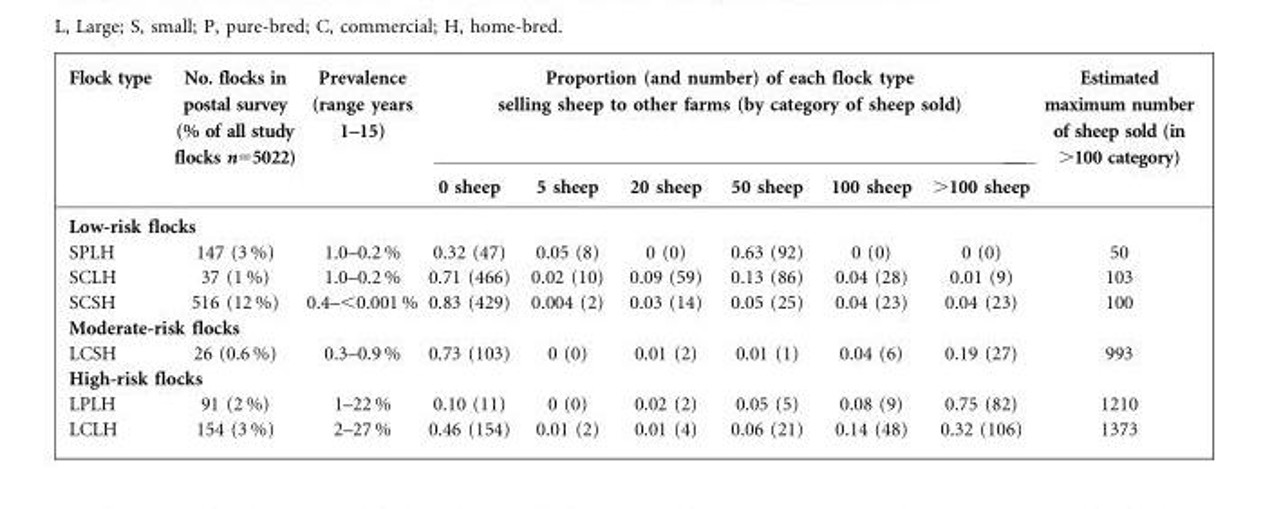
<table><thead><tr><td rowspan="2">Flock type</td><td rowspan="2">No. flocks in postal survey (% of all study flocks n=5022)</td><td rowspan="2">Prevalence (range years 1–15)</td><td colspan="6">Proportion (and number) of each flock type selling sheep to other farms (by category of sheep sold)</td><td rowspan="2">Estimated maximum number of sheep sold (in &gt;100 category)</td></tr><tr><td>0 sheep</td><td>5 sheep</td><td>20 sheep</td><td>50 sheep</td><td>100 sheep</td><td>&gt;100 sheep</td></tr></thead><tbody><tr><td colspan="10">Low-risk flocks</td></tr><tr><td>SPLH</td><td>147 (3 %)</td><td>1.0–0.2 %</td><td>0.32 (47)</td><td>0.05 (8)</td><td>0 (0)</td><td>0.63 (92)</td><td>0 (0)</td><td>0 (0)</td><td>50</td></tr><tr><td>SCLH</td><td>37 (1 %)</td><td>1.0–0.2 %</td><td>0.71 (466)</td><td>0.02 (10)</td><td>0.09 (59)</td><td>0.13 (86)</td><td>0.04 (28)</td><td>0.01 (9)</td><td>103</td></tr><tr><td>SCSH</td><td>516 (12 %)</td><td>0.4–&lt;0.001 %</td><td>0.83 (429)</td><td>0.004 (2)</td><td>0.03 (14)</td><td>0.05 (25)</td><td>0.04 (23)</td><td>0.04 (23)</td><td>100</td></tr><tr><td colspan="10">Moderate-risk flocks</td></tr><tr><td>LCSH</td><td>26 (0.6 %)</td><td>0.3–0.9 %</td><td>0.73 (103)</td><td>0 (0)</td><td>0.01 (2)</td><td>0.01 (1)</td><td>0.04 (6)</td><td>0.19 (27)</td><td>993</td></tr><tr><td colspan="10">High-risk flocks</td></tr><tr><td>LPLH</td><td>91 (2 %)</td><td>1–22 %</td><td>0.10 (11)</td><td>0 (0)</td><td>0.02 (2)</td><td>0.05 (5)</td><td>0.08 (9)</td><td>0.75 (82)</td><td>1210</td></tr><tr><td>LCLH</td><td>154 (3 %)</td><td>2–27 %</td><td>0.46 (154)</td><td>0.01 (2)</td><td>0.01 (4)</td><td>0.06 (21)</td><td>0.14 (48)</td><td>0.32 (106)</td><td>1373</td></tr></tbody></table>